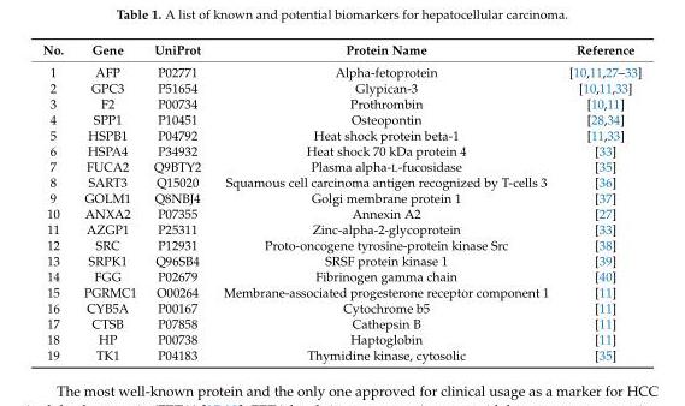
<table><thead><tr><td>No.</td><td>Gene</td><td>UniProt</td><td>Protein Name</td><td>Reference</td></tr></thead><tbody><tr><td>1</td><td>AFP</td><td>P02771</td><td>Alpha-fetoprotein</td><td>[10,11,27–33]</td></tr><tr><td>2</td><td>GPC3</td><td>P51654</td><td>Glypican-3</td><td>[10,11,33]</td></tr><tr><td>3</td><td>F2</td><td>P00734</td><td>Prothrombin</td><td>[10,11]</td></tr><tr><td>4</td><td>SPP1</td><td>P10451</td><td>Osteopontin</td><td>[28,34]</td></tr><tr><td>5</td><td>HSPB1</td><td>P04792</td><td>Heat shock protein beta-1</td><td>[11,33]</td></tr><tr><td>6</td><td>HSPA4</td><td>P34932</td><td>Heat shock 70 kDa protein 4</td><td>[33]</td></tr><tr><td>7</td><td>FUCA2</td><td>Q9BTY2</td><td>Plasma alpha-L-fucosidase</td><td>[35]</td></tr><tr><td>8</td><td>SART3</td><td>Q15020</td><td>Squamous cell carcinoma antigen recognized by T-cells 3</td><td>[36]</td></tr><tr><td>9</td><td>GOLM1</td><td>Q8NBJ4</td><td>Golgi membrane protein 1</td><td>[37]</td></tr><tr><td>10</td><td>ANXA2</td><td>P07355</td><td>Annexin A2</td><td>[27]</td></tr><tr><td>11</td><td>AZGP1</td><td>P25311</td><td>Zinc-alpha-2-glycoprotein</td><td>[33]</td></tr><tr><td>12</td><td>SRC</td><td>P12931</td><td>Proto-oncogene tyrosine-protein kinase Src</td><td>[38]</td></tr><tr><td>13</td><td>SRPK1</td><td>Q96SB4</td><td>SRSF protein kinase 1</td><td>[39]</td></tr><tr><td>14</td><td>FGG</td><td>P02679</td><td>Fibrinogen gamma chain</td><td>[40]</td></tr><tr><td>15</td><td>PGRMC1</td><td>O00264</td><td>Membrane-associated progesterone receptor component 1</td><td>[11]</td></tr><tr><td>16</td><td>CYB5A</td><td>P00167</td><td>Cytochrome b5</td><td>[11]</td></tr><tr><td>17</td><td>CTSB</td><td>P07858</td><td>Cathepsin B</td><td>[11]</td></tr><tr><td>18</td><td>HP</td><td>P00738</td><td>Haptoglobin</td><td>[11]</td></tr><tr><td>19</td><td>TK1</td><td>P04183</td><td>Thymidine kinase, cytosolic</td><td>[35]</td></tr></tbody></table>